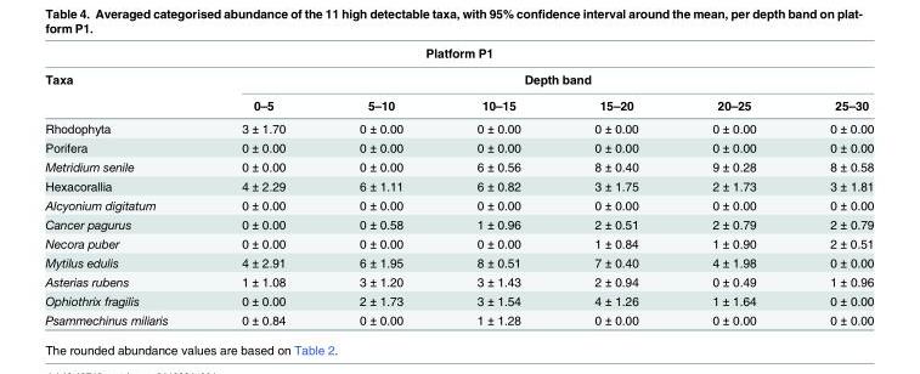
<table><thead><tr><td colspan="7">Platform P1</td></tr><tr><td rowspan="2">Taxa</td><td colspan="6">Depth band</td></tr><tr><td>0–5</td><td>5–10</td><td>10–15</td><td>15–20</td><td>20–25</td><td>25–30</td></tr></thead><tbody><tr><td>Rhodophyta</td><td>3 ± 1.70</td><td>0 ± 0.00</td><td>0 ± 0.00</td><td>0 ± 0.00</td><td>0 ± 0.00</td><td>0 ± 0.00</td></tr><tr><td>Porifera</td><td>0 ± 0.00</td><td>0 ± 0.00</td><td>0 ± 0.00</td><td>0 ± 0.00</td><td>0 ± 0.00</td><td>0 ± 0.00</td></tr><tr><td>Metridium senile</td><td>0 ± 0.00</td><td>0 ± 0.00</td><td>6 ± 0.56</td><td>8 ± 0.40</td><td>9 ± 0.28</td><td>8 ± 0.58</td></tr><tr><td>Hexacorallia</td><td>4 ± 2.29</td><td>6 ± 1.11</td><td>6 ± 0.82</td><td>3 ± 1.75</td><td>2 ± 1.73</td><td>3 ± 1.81</td></tr><tr><td>Alcyonium digitatum</td><td>0 ± 0.00</td><td>0 ± 0.00</td><td>0 ± 0.00</td><td>0 ± 0.00</td><td>0 ± 0.00</td><td>0 ± 0.00</td></tr><tr><td>Cancer pagurus</td><td>0 ± 0.00</td><td>0 ± 0.58</td><td>1 ± 0.96</td><td>2 ± 0.51</td><td>2 ± 0.79</td><td>2 ± 0.79</td></tr><tr><td>Necora puber</td><td>0 ± 0.00</td><td>0 ± 0.00</td><td>0 ± 0.00</td><td>1 ± 0.84</td><td>1 ± 0.90</td><td>2 ± 0.51</td></tr><tr><td>Mytilus edulis</td><td>4 ± 2.91</td><td>6 ± 1.95</td><td>8 ± 0.51</td><td>7 ± 0.40</td><td>4 ± 1.98</td><td>0 ± 0.00</td></tr><tr><td>Asterias rubens</td><td>1 ± 1.08</td><td>3 ± 1.20</td><td>3 ± 1.43</td><td>2 ± 0.94</td><td>0 ± 0.49</td><td>1 ± 0.96</td></tr><tr><td>Ophiothrix fragilis</td><td>0 ± 0.00</td><td>2 ± 1.73</td><td>3 ± 1.54</td><td>4 ± 1.26</td><td>1 ± 1.64</td><td>0 ± 0.00</td></tr><tr><td>Psammechinus miliaris</td><td>0 ± 0.84</td><td>0 ± 0.00</td><td>1 ± 1.28</td><td>0 ± 0.00</td><td>0 ± 0.00</td><td>0 ± 0.00</td></tr></tbody></table>